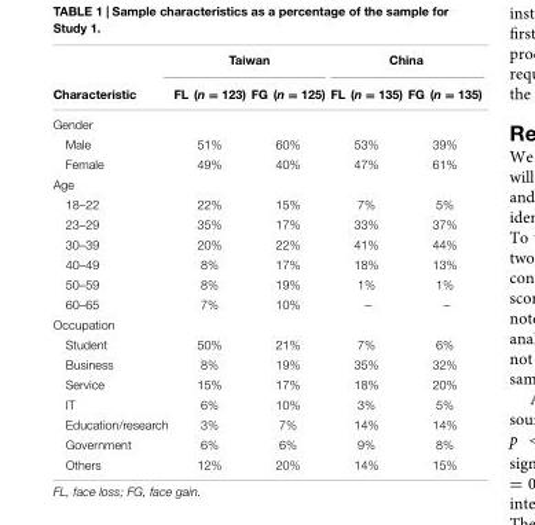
<table><thead><tr><td rowspan="2">Characteristic</td><td colspan="2">Taiwan</td><td colspan="2">China</td></tr><tr><td>FL (n = 123)</td><td>FG (n = 125)</td><td>FL (n = 135)</td><td>FG (n = 135)</td></tr></thead><tbody><tr><td colspan="5">Gender</td></tr><tr><td>Male</td><td>51%</td><td>60%</td><td>53%</td><td>39%</td></tr><tr><td>Female</td><td>49%</td><td>40%</td><td>47%</td><td>61%</td></tr><tr><td colspan="5">Age</td></tr><tr><td>18–22</td><td>22%</td><td>15%</td><td>7%</td><td>5%</td></tr><tr><td>23–29</td><td>35%</td><td>17%</td><td>33%</td><td>37%</td></tr><tr><td>30–39</td><td>20%</td><td>22%</td><td>41%</td><td>44%</td></tr><tr><td>40–49</td><td>8%</td><td>17%</td><td>18%</td><td>13%</td></tr><tr><td>50–59</td><td>8%</td><td>19%</td><td>1%</td><td>1%</td></tr><tr><td>60–65</td><td>7%</td><td>10%</td><td>–</td><td>–</td></tr><tr><td colspan="5">Occupation</td></tr><tr><td>Student</td><td>50%</td><td>21%</td><td>7%</td><td>6%</td></tr><tr><td>Business</td><td>8%</td><td>19%</td><td>35%</td><td>32%</td></tr><tr><td>Service</td><td>15%</td><td>17%</td><td>18%</td><td>20%</td></tr><tr><td>IT</td><td>6%</td><td>10%</td><td>3%</td><td>5%</td></tr><tr><td>Education/research</td><td>3%</td><td>7%</td><td>14%</td><td>14%</td></tr><tr><td>Government</td><td>6%</td><td>6%</td><td>9%</td><td>8%</td></tr><tr><td>Others</td><td>12%</td><td>20%</td><td>14%</td><td>15%</td></tr></tbody></table>